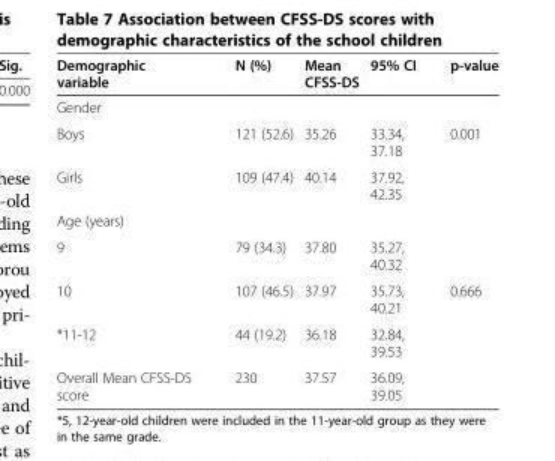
<table><thead><tr><td>Demographic variable</td><td>N (%)</td><td>Mean CFSS-DS</td><td>95% CI</td><td>p-value</td></tr></thead><tbody><tr><td colspan="5">Gender</td></tr><tr><td>Boys</td><td>121 (52.6)</td><td>35.26</td><td>33.34, 37.18</td><td>0.001</td></tr><tr><td>Girls</td><td>109 (47.4)</td><td>40.14</td><td>37.92, 42.35</td><td></td></tr><tr><td colspan="5">Age (years)</td></tr><tr><td>9</td><td>79 (34.3)</td><td>37.80</td><td>35.27, 40.32</td><td></td></tr><tr><td>10</td><td>107 (46.5)</td><td>37.97</td><td>35.73, 40.21</td><td>0.666</td></tr><tr><td>*11-12</td><td>44 (19.2)</td><td>36.18</td><td>32.84, 39.53</td><td></td></tr><tr><td>Overall Mean CFSS-DS score</td><td>230</td><td>37.57</td><td>36.09, 39.05</td><td></td></tr></tbody></table>